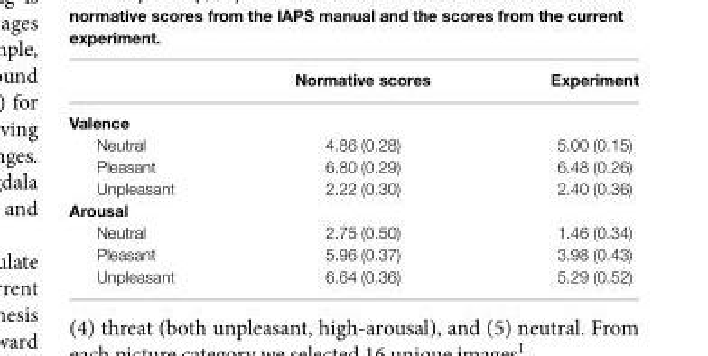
<table><thead><tr><td></td><td>Normative scores</td><td>Experiment</td></tr></thead><tbody><tr><td colspan="3">Valence</td></tr><tr><td>Neutral</td><td>4.86 (0.28)</td><td>5.00 (0.15)</td></tr><tr><td>Pleasant</td><td>6.80 (0.29)</td><td>6.48 (0.26)</td></tr><tr><td>Unpleasant</td><td>2.22 (0.30)</td><td>2.40 (0.36)</td></tr><tr><td colspan="3">Arousal</td></tr><tr><td>Neutral</td><td>2.75 (0.50)</td><td>1.46 (0.34)</td></tr><tr><td>Pleasant</td><td>5.96 (0.37)</td><td>3.98 (0.43)</td></tr><tr><td>Unpleasant</td><td>6.64 (0.36)</td><td>5.29 (0.52)</td></tr></tbody></table>